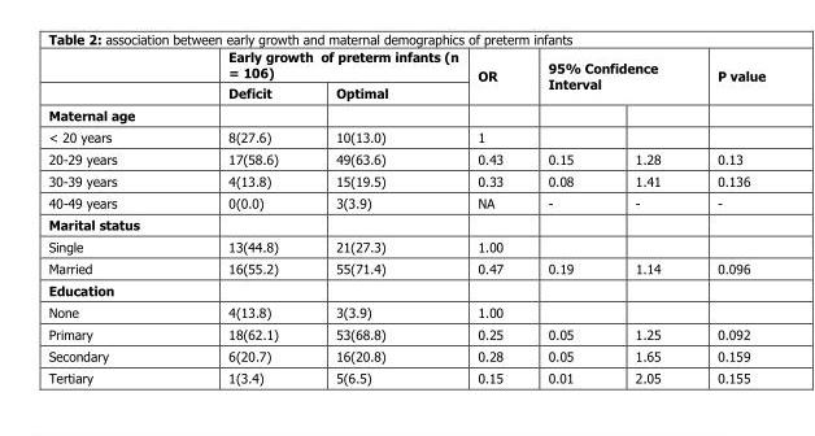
<table><thead><tr><td rowspan="3">Maternal age</td><td colspan="2">Early growth of preterm infants (n = 106)</td><td rowspan="3">OR</td><td rowspan="2" colspan="2">95% Confidence Interval</td><td rowspan="3">P value</td></tr><tr><td rowspan="2">Deficit</td><td rowspan="2">Optimal</td></tr><tr><td></td><td></td></tr></thead><tbody><tr><td>&lt; 20 years</td><td>8(27.6)</td><td>10(13.0)</td><td>1</td><td></td><td></td><td></td></tr><tr><td>20-29 years</td><td>17(58.6)</td><td>49(63.6)</td><td>0.43</td><td>0.15</td><td>1.28</td><td>0.13</td></tr><tr><td>30-39 years</td><td>4(13.8)</td><td>15(19.5)</td><td>0.33</td><td>0.08</td><td>1.41</td><td>0.136</td></tr><tr><td>40-49 years</td><td>0(0.0)</td><td>3(3.9)</td><td>NA</td><td>-</td><td>-</td><td>-</td></tr><tr><td colspan="7">Marital status</td></tr><tr><td>Single</td><td>13(44.8)</td><td>21(27.3)</td><td>1.00</td><td></td><td></td><td></td></tr><tr><td>Married</td><td>16(55.2)</td><td>55(71.4)</td><td>0.47</td><td>0.19</td><td>1.14</td><td>0.096</td></tr><tr><td colspan="7">Education</td></tr><tr><td>None</td><td>4(13.8)</td><td>3(3.9)</td><td>1.00</td><td></td><td></td><td></td></tr><tr><td>Primary</td><td>18(62.1)</td><td>53(68.8)</td><td>0.25</td><td>0.05</td><td>1.25</td><td>0.092</td></tr><tr><td>Secondary</td><td>6(20.7)</td><td>16(20.8)</td><td>0.28</td><td>0.05</td><td>1.65</td><td>0.159</td></tr><tr><td>Tertiary</td><td>1(3.4)</td><td>5(6.5)</td><td>0.15</td><td>0.01</td><td>2.05</td><td>0.155</td></tr></tbody></table>